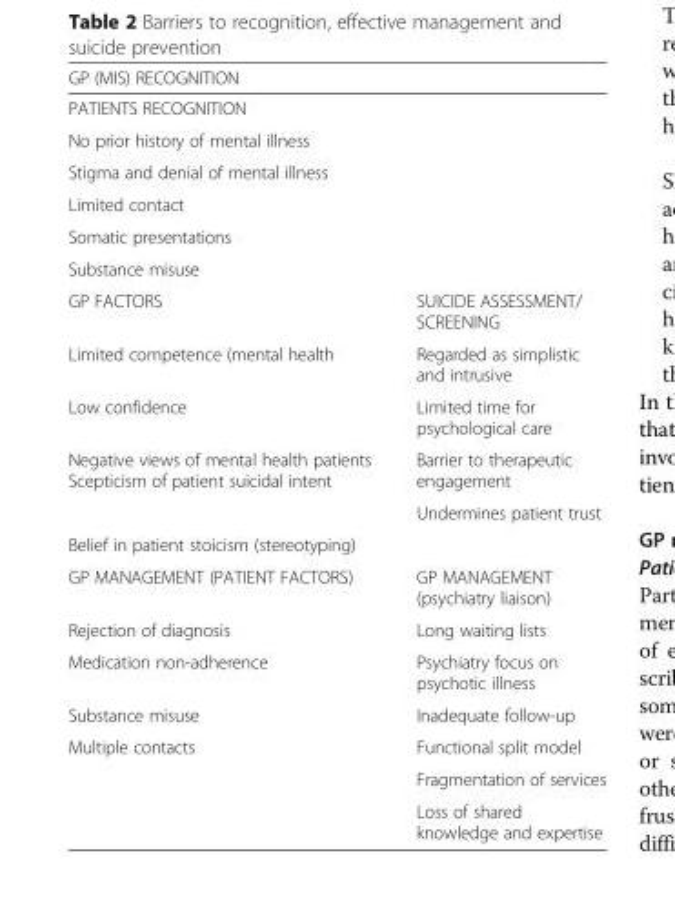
<table><thead><tr><td rowspan="2" colspan="2">GP (MIS) RECOGNITION PATIENTS RECOGNITION</td></tr><tr></tr><tr><td>No prior history of mental illness</td><td></td></tr></thead><tbody><tr><td colspan="2">Stigma and denial of mental illness</td></tr><tr><td colspan="2">Limited contact</td></tr><tr><td colspan="2">Somatic presentations</td></tr><tr><td colspan="2">Substance misuse</td></tr><tr><td>GP FACTORS</td><td>SUICIDE ASSESSMENT/ SCREENING</td></tr><tr><td>Limited competence (mental health</td><td>Regarded as simplistic and intrusive</td></tr><tr><td>Low confidence</td><td>Limited time for psychological care</td></tr><tr><td rowspan="2">Negative views of mental health patients Scepticism of patient suicidal intent</td><td>Barrier to therapeutic engagement</td></tr><tr><td>Undermines patient trust</td></tr><tr><td colspan="2">Belief in patient stoicism (stereotyping)</td></tr><tr><td>GP MANAGEMENT (PATIENT FACTORS)</td><td>GP MANAGEMENT (psychiatry liaison)</td></tr><tr><td>Rejection of diagnosis</td><td>Long waiting lists</td></tr><tr><td>Medication non-adherence</td><td>Psychiatry focus on psychotic illness</td></tr><tr><td>Substance misuse</td><td>Inadequate follow-up</td></tr><tr><td rowspan="3">Multiple contacts</td><td>Functional split model</td></tr><tr><td>Fragmentation of services</td></tr><tr><td>Loss of shared knowledge and expertise</td></tr></tbody></table>